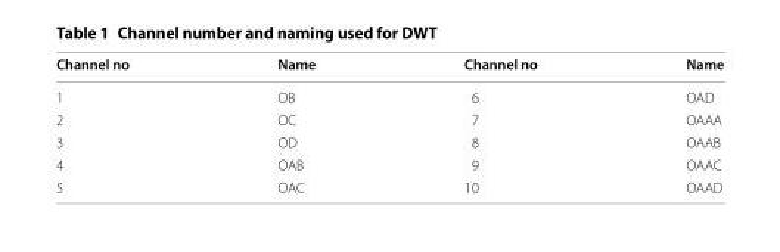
<table><thead><tr><td>Channel no</td><td>Name</td><td>Channel no</td><td>Name</td></tr></thead><tbody><tr><td>1</td><td>OB</td><td>6</td><td>OAD</td></tr><tr><td>2</td><td>OC</td><td>7</td><td>OAAA</td></tr><tr><td>3</td><td>OD</td><td>8</td><td>OAAB</td></tr><tr><td>4</td><td>OAB</td><td>9</td><td>OAAC</td></tr><tr><td>5</td><td>OAC</td><td>10</td><td>OAAD</td></tr></tbody></table>